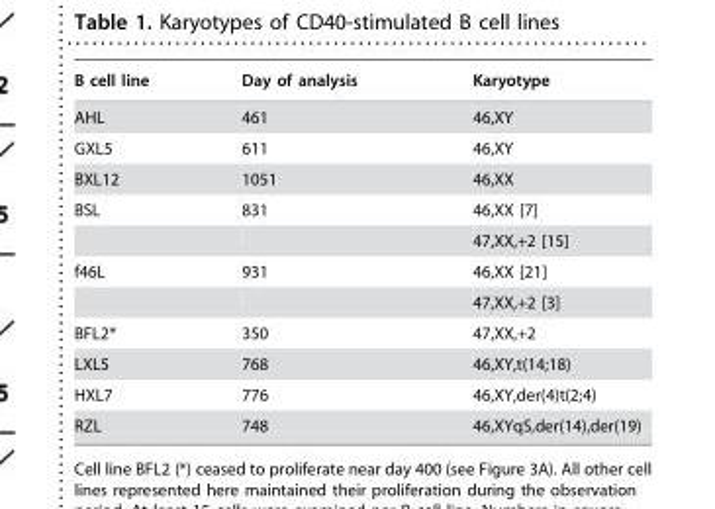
<table><thead><tr><td>B cell line</td><td>Day of analysis</td><td>Karyotype</td></tr></thead><tbody><tr><td>AHL</td><td>461</td><td>46,XY</td></tr><tr><td>GXL5</td><td>611</td><td>46,XY</td></tr><tr><td>BXL12</td><td>1051</td><td>46,XX</td></tr><tr><td rowspan="2">BSL</td><td>831</td><td>46,XX [7]</td></tr><tr><td></td><td>47,XX,+2 [15]</td></tr><tr><td rowspan="2">f46L</td><td>931</td><td>46,XX [21]</td></tr><tr><td></td><td>47,XX,+2 [3]</td></tr><tr><td>BFL2*</td><td>350</td><td>47,XX,+2</td></tr><tr><td>LXL5</td><td>768</td><td>46,XY,t(14;18)</td></tr><tr><td>HXL7</td><td>776</td><td>46,XY,der(4)t(2;4)</td></tr><tr><td>RZL</td><td>748</td><td>46,XYqS,der(14),der(19)</td></tr></tbody></table>